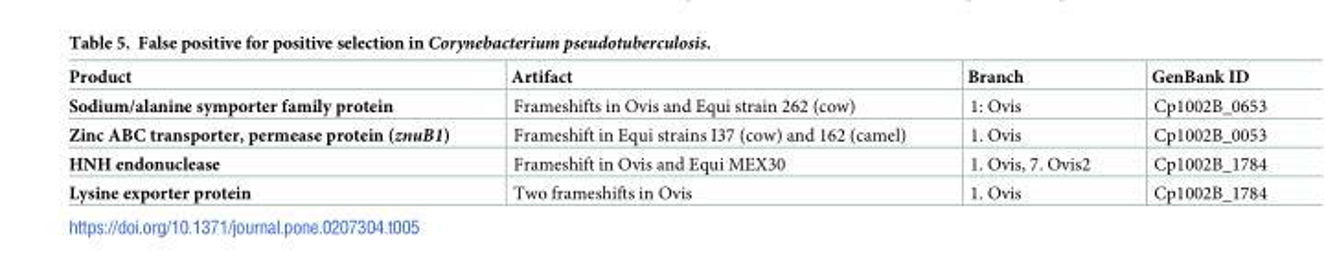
<table><thead><tr><td>Product</td><td>Artifact</td><td>Branch</td><td>GenBank ID</td></tr></thead><tbody><tr><td>Sodium/alanine symporter family protein</td><td>Frameshifts in Ovis and Equi strain 262 (cow)</td><td>1: Ovis</td><td>Cp1002B_0653</td></tr><tr><td>Zinc ABC transporter, permease protein (znuB1)</td><td>Frameshift in Equi strains I37 (cow) and 162 (camel)</td><td>1. Ovis</td><td>Cp1002B_0053</td></tr><tr><td>HNH endonuclease</td><td>Frameshift in Ovis and Equi MEX30</td><td>1. Ovis, 7. Ovis2</td><td>Cp1002B_1784</td></tr><tr><td>Lysine exporter protein</td><td>Two frameshifts in Ovis</td><td>1. Ovis</td><td>Cp1002B_1784</td></tr></tbody></table>